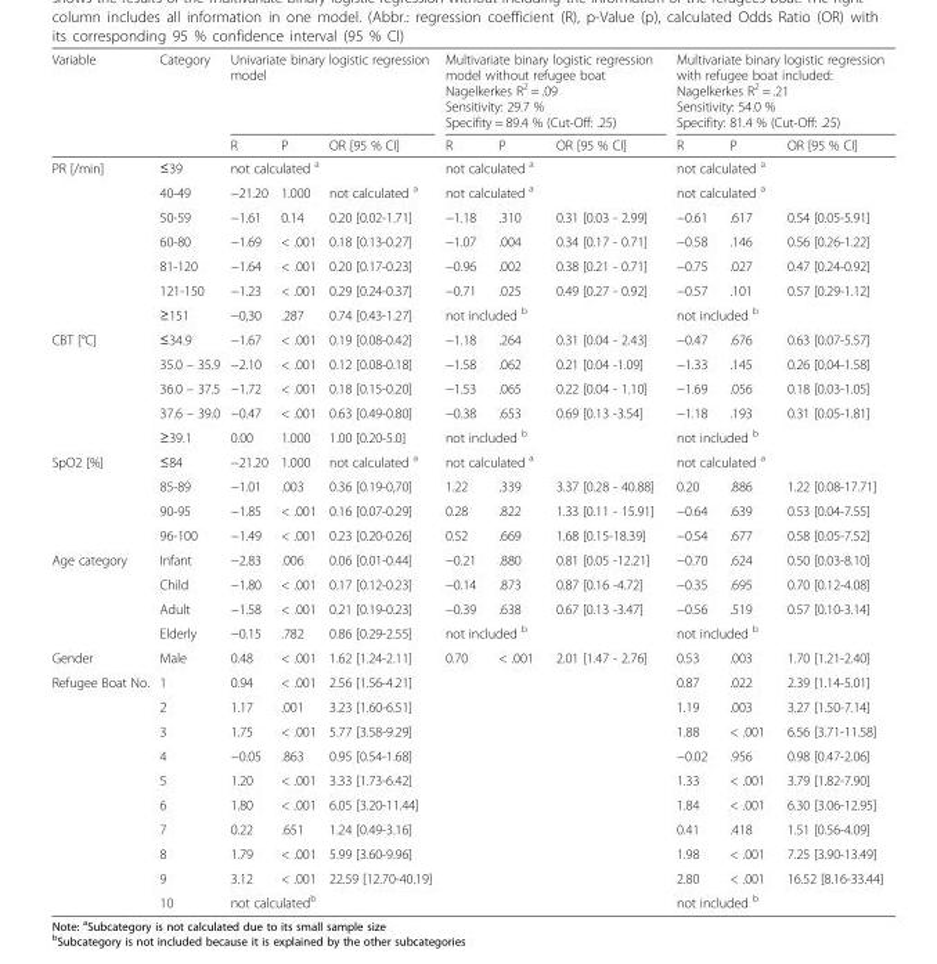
<table><thead><tr><td rowspan="2">Variable</td><td rowspan="2">Category</td><td colspan="3">Univariate binary logistic regression model</td><td colspan="3">Multivariate binary logistic regression model without refugee boat Nagelkerkes R<sup>2</sup> = .09 Sensitivity: 29.7 % Specifity = 89.4 % (Cut-Off: .25)</td><td colspan="3">Multivariate binary logistic regression with refugee boat included: Nagelkerkes R<sup>2</sup> = .21 Sensitivity: 54.0 % Specifity: 81.4 % (Cut-Off: .25)</td></tr><tr><td>R</td><td>P</td><td>OR [95 % CI]</td><td>R</td><td>P</td><td>OR [95 % CI]</td><td>R</td><td>P</td><td>OR [95 % CI]</td></tr></thead><tbody><tr><td rowspan="7">PR [/min]</td><td>≤39</td><td colspan="3">not calculated <sup>a</sup></td><td colspan="3">not calculated <sup>a</sup></td><td colspan="3">not calculated <sup>a</sup></td></tr><tr><td>40-49</td><td>−21.20</td><td>1.000</td><td>not calculated <sup>a</sup></td><td colspan="3">not calculated <sup>a</sup></td><td colspan="3">not calculated <sup>a</sup></td></tr><tr><td>50-59</td><td>−1.61</td><td>0.14</td><td>0.20 [0.02-1.71]</td><td>−1.18</td><td>.310</td><td>0.31 [0.03 - 2.99]</td><td>−0.61</td><td>.617</td><td>0.54 [0.05-5.91]</td></tr><tr><td>60-80</td><td>−1.69</td><td>&lt; .001</td><td>0.18 [0.13-0.27]</td><td>−1.07</td><td>.004</td><td>0.34 [0.17 - 0.71]</td><td>−0.58</td><td>.146</td><td>0.56 [0.26-1.22]</td></tr><tr><td>81-120</td><td>−1.64</td><td>&lt; .001</td><td>0.20 [0.17-0.23]</td><td>−0.96</td><td>.002</td><td>0.38 [0.21 - 0.71]</td><td>−0.75</td><td>.027</td><td>0.47 [0.24-0.92]</td></tr><tr><td>121-150</td><td>−1.23</td><td>&lt; .001</td><td>0.29 [0.24-0.37]</td><td>−0.71</td><td>.025</td><td>0.49 [0.27 - 0.92]</td><td>−0.57</td><td>.101</td><td>0.57 [0.29-1.12]</td></tr><tr><td>≥151</td><td>−0,30</td><td>.287</td><td>0.74 [0.43-1.27]</td><td colspan="3">not included <sup>b</sup></td><td colspan="3">not included <sup>b</sup></td></tr><tr><td rowspan="5">CBT [°C]</td><td>≤34.9</td><td>−1.67</td><td>&lt; .001</td><td>0.19 [0.08-0.42]</td><td>−1.18</td><td>.264</td><td>0.31 [0.04 - 2.43]</td><td>−0.47</td><td>.676</td><td>0.63 [0.07-5.57]</td></tr><tr><td>35.0 – 35.9</td><td>−2.10</td><td>&lt; .001</td><td>0.12 [0.08-0.18]</td><td>−1.58</td><td>.062</td><td>0.21 [0.04 -1.09]</td><td>−1.33</td><td>.145</td><td>0.26 [0.04-1.58]</td></tr><tr><td>36.0 – 37.5</td><td>−1.72</td><td>&lt; .001</td><td>0.18 [0.15-0.20]</td><td>−1.53</td><td>.065</td><td>0.22 [0.04 - 1.10]</td><td>−1.69</td><td>.056</td><td>0.18 [0.03-1.05]</td></tr><tr><td>37.6 – 39.0</td><td>−0.47</td><td>&lt; .001</td><td>0.63 [0.49-0.80]</td><td>−0.38</td><td>.653</td><td>0.69 [0.13 -3.54]</td><td>−1.18</td><td>.193</td><td>0.31 [0.05-1.81]</td></tr><tr><td>≥39.1</td><td>0.00</td><td>1.000</td><td>1.00 [0.20-5.0]</td><td colspan="3">not included <sup>b</sup></td><td colspan="3">not included <sup>b</sup></td></tr><tr><td rowspan="4">SpO2 [%]</td><td>≤84</td><td>−21.20</td><td>1.000</td><td>not calculated <sup>a</sup></td><td colspan="3">not calculated <sup>a</sup></td><td colspan="3">not calculated <sup>a</sup></td></tr><tr><td>85-89</td><td>−1.01</td><td>.003</td><td>0.36 [0.19-0,70]</td><td>1.22</td><td>.339</td><td>3.37 [0.28 - 40.88]</td><td>0.20</td><td>.886</td><td>1.22 [0.08-17.71]</td></tr><tr><td>90-95</td><td>−1.85</td><td>&lt; .001</td><td>0.16 [0.07-0.29]</td><td>0.28</td><td>.822</td><td>1.33 [0.11 - 15.91]</td><td>−0.64</td><td>.639</td><td>0.53 [0.04-7.55]</td></tr><tr><td>96-100</td><td>−1.49</td><td>&lt; .001</td><td>0.23 [0.20-0.26]</td><td>0.52</td><td>.669</td><td>1.68 [0.15-18.39]</td><td>−0.54</td><td>.677</td><td>0.58 [0.05-7.52]</td></tr><tr><td rowspan="4">Age category</td><td>Infant</td><td>−2.83</td><td>.006</td><td>0.06 [0.01-0.44]</td><td>−0.21</td><td>.880</td><td>0.81 [0.05 -12.21]</td><td>−0.70</td><td>.624</td><td>0.50 [0.03-8.10]</td></tr><tr><td>Child</td><td>−1.80</td><td>&lt; .001</td><td>0.17 [0.12-0.23]</td><td>−0.14</td><td>.873</td><td>0.87 [0.16 -4.72]</td><td>−0.35</td><td>.695</td><td>0.70 [0.12-4.08]</td></tr><tr><td>Adult</td><td>−1.58</td><td>&lt; .001</td><td>0.21 [0.19-0.23]</td><td>−0.39</td><td>.638</td><td>0.67 [0.13 -3.47]</td><td>−0.56</td><td>.519</td><td>0.57 [0.10-3.14]</td></tr><tr><td>Elderly</td><td>−0.15</td><td>.782</td><td>0.86 [0.29-2.55]</td><td colspan="3">not included <sup>b</sup></td><td colspan="3">not included <sup>b</sup></td></tr><tr><td>Gender</td><td>Male</td><td>0.48</td><td>&lt; .001</td><td>1.62 [1.24-2.11]</td><td>0.70</td><td>&lt; .001</td><td>2.01 [1.47 - 2.76]</td><td>0.53</td><td>.003</td><td>1.70 [1.21-2.40]</td></tr><tr><td rowspan="10">Refugee Boat No.</td><td>1</td><td>0.94</td><td>&lt; .001</td><td>2.56 [1.56-4.21]</td><td rowspan="10" colspan="3"></td><td>0.87</td><td>.022</td><td>2.39 [1.14-5.01]</td></tr><tr><td>2</td><td>1.17</td><td>.001</td><td>3.23 [1.60-6.51]</td><td>1.19</td><td>.003</td><td>3.27 [1.50-7.14]</td></tr><tr><td>3</td><td>1.75</td><td>&lt; .001</td><td>5.77 [3.58-9.29]</td><td>1.88</td><td>&lt; .001</td><td>6.56 [3.71-11.58]</td></tr><tr><td>4</td><td>−0.05</td><td>.863</td><td>0.95 [0.54-1.68]</td><td>−0.02</td><td>.956</td><td>0.98 [0.47-2.06]</td></tr><tr><td>5</td><td>1.20</td><td>&lt; .001</td><td>3.33 [1.73-6.42]</td><td>1.33</td><td>&lt; .001</td><td>3.79 [1.82-7.90]</td></tr><tr><td>6</td><td>1.80</td><td>&lt; .001</td><td>6.05 [3.20-11.44]</td><td>1.84</td><td>&lt; .001</td><td>6.30 [3.06-12.95]</td></tr><tr><td>7</td><td>0.22</td><td>.651</td><td>1.24 [0.49-3.16]</td><td>0.41</td><td>.418</td><td>1.51 [0.56-4.09]</td></tr><tr><td>8</td><td>1.79</td><td>&lt; .001</td><td>5.99 [3.60-9.96]</td><td>1.98</td><td>&lt; .001</td><td>7.25 [3.90-13.49]</td></tr><tr><td>9</td><td>3.12</td><td>&lt; .001</td><td>22.59 [12.70-40.19]</td><td>2.80</td><td>&lt; .001</td><td>16.52 [8.16-33.44]</td></tr><tr><td>10</td><td colspan="3">not calculated<sup>b</sup></td><td colspan="3">not included <sup>b</sup></td></tr></tbody></table>